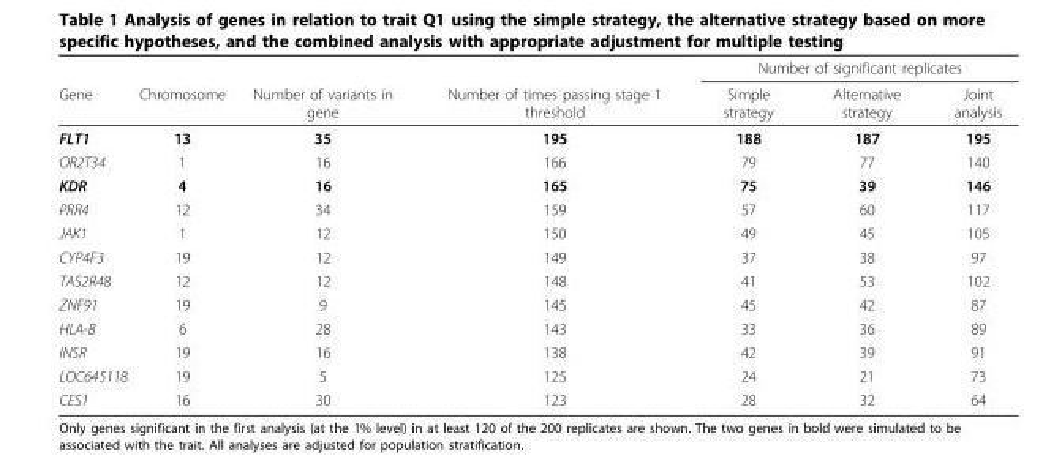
<table><thead><tr><td rowspan="2">Gene</td><td rowspan="2">Chromosome</td><td rowspan="2">Number of variants in gene</td><td rowspan="2">Number of times passing stage 1 threshold</td><td colspan="3">Number of significant replicates</td></tr><tr><td>Simple strategy</td><td>Alternative strategy</td><td>Joint analysis</td></tr></thead><tbody><tr><td>FLT1</td><td>13</td><td>35</td><td>195</td><td>188</td><td>187</td><td>195</td></tr><tr><td>OR2T34</td><td>1</td><td>16</td><td>166</td><td>79</td><td>77</td><td>140</td></tr><tr><td>KDR</td><td>4</td><td>16</td><td>165</td><td>75</td><td>39</td><td>146</td></tr><tr><td>PRR4</td><td>12</td><td>34</td><td>159</td><td>57</td><td>60</td><td>117</td></tr><tr><td>JAK1</td><td>1</td><td>12</td><td>150</td><td>49</td><td>45</td><td>105</td></tr><tr><td>CYP4F3</td><td>19</td><td>12</td><td>149</td><td>37</td><td>38</td><td>97</td></tr><tr><td>TAS2R48</td><td>12</td><td>12</td><td>148</td><td>41</td><td>53</td><td>102</td></tr><tr><td>ZNF91</td><td>19</td><td>9</td><td>145</td><td>45</td><td>42</td><td>87</td></tr><tr><td>HLA-B</td><td>6</td><td>28</td><td>143</td><td>33</td><td>36</td><td>89</td></tr><tr><td>INSR</td><td>19</td><td>16</td><td>138</td><td>42</td><td>39</td><td>91</td></tr><tr><td>LOC645118</td><td>19</td><td>5</td><td>125</td><td>24</td><td>21</td><td>73</td></tr><tr><td>CES1</td><td>16</td><td>30</td><td>123</td><td>28</td><td>32</td><td>64</td></tr></tbody></table>